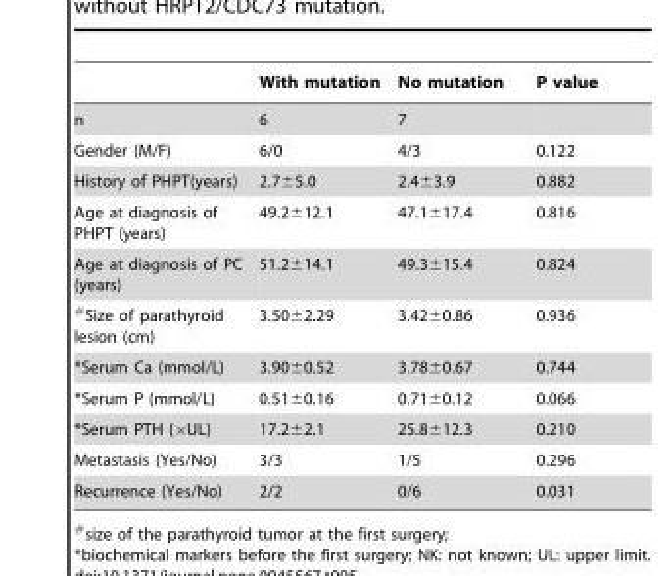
<table><thead><tr><td></td><td>With mutation</td><td>No mutation</td><td>P value</td></tr></thead><tbody><tr><td>n</td><td>6</td><td>7</td><td></td></tr><tr><td>Gender (M/F)</td><td>6/0</td><td>4/3</td><td>0.122</td></tr><tr><td>History of PHPT(years)</td><td>2.7±5.0</td><td>2.4±3.9</td><td>0.882</td></tr><tr><td>Age at diagnosis of PHPT (years)</td><td>49.2±12.1</td><td>47.1±17.4</td><td>0.816</td></tr><tr><td>Age at diagnosis of PC (years)</td><td>51.2±14.1</td><td>49.3±15.4</td><td>0.824</td></tr><tr><td>#Size of parathyroid lesion (cm)</td><td>3.50±2.29</td><td>3.42±0.86</td><td>0.936</td></tr><tr><td>*Serum Ca (mmol/L)</td><td>3.90±0.52</td><td>3.78±0.67</td><td>0.744</td></tr><tr><td>*Serum P (mmol/L)</td><td>0.51±0.16</td><td>0.71±0.12</td><td>0.066</td></tr><tr><td>*Serum PTH (×UL)</td><td>17.2±2.1</td><td>25.8±12.3</td><td>0.210</td></tr><tr><td>Metastasis (Yes/No)</td><td>3/3</td><td>1/5</td><td>0.296</td></tr><tr><td>Recurrence (Yes/No)</td><td>2/2</td><td>0/6</td><td>0.031</td></tr></tbody></table>